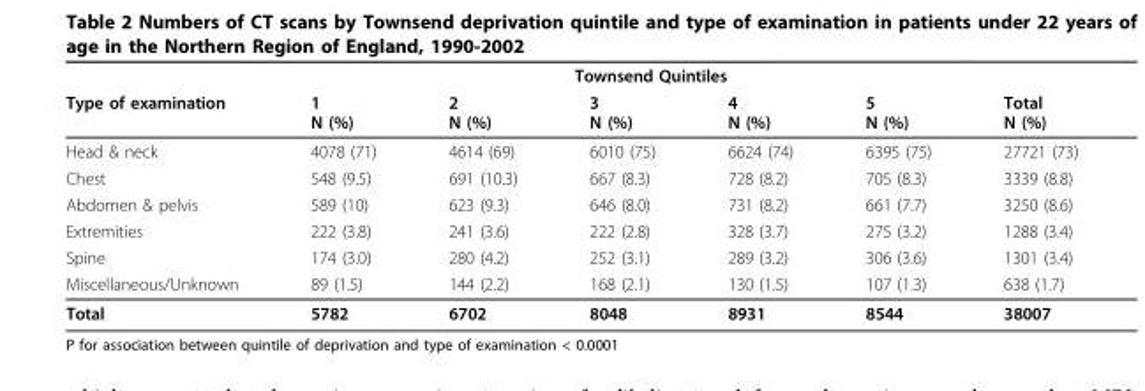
<table><thead><tr><td rowspan="2">Type of examination</td><td colspan="5">Townsend Quintiles</td><td rowspan="2">Total N (%)</td></tr><tr><td>1 N (%)</td><td>2 N (%)</td><td>3 N (%)</td><td>4 N (%)</td><td>5 N (%)</td></tr></thead><tbody><tr><td>Head &amp; neck</td><td>4078 (71)</td><td>4614 (69)</td><td>6010 (75)</td><td>6624 (74)</td><td>6395 (75)</td><td>27721 (73)</td></tr><tr><td>Chest</td><td>548 (9.5)</td><td>691 (10.3)</td><td>667 (8.3)</td><td>728 (8.2)</td><td>705 (8.3)</td><td>3339 (8.8)</td></tr><tr><td>Abdomen &amp; pelvis</td><td>589 (10)</td><td>623 (9.3)</td><td>646 (8.0)</td><td>731 (8.2)</td><td>661 (7.7)</td><td>3250 (8.6)</td></tr><tr><td>Extremities</td><td>222 (3.8)</td><td>241 (3.6)</td><td>222 (2.8)</td><td>328 (3.7)</td><td>275 (3.2)</td><td>1288 (3.4)</td></tr><tr><td>Spine</td><td>174 (3.0)</td><td>280 (4.2)</td><td>252 (3.1)</td><td>289 (3.2)</td><td>306 (3.6)</td><td>1301 (3.4)</td></tr><tr><td>Miscellaneous/Unknown</td><td>89 (1.5)</td><td>144 (2.2)</td><td>168 (2.1)</td><td>130 (1.5)</td><td>107 (1.3)</td><td>638 (1.7)</td></tr><tr><td>Total</td><td>5782</td><td>6702</td><td>8048</td><td>8931</td><td>8544</td><td>38007</td></tr></tbody></table>